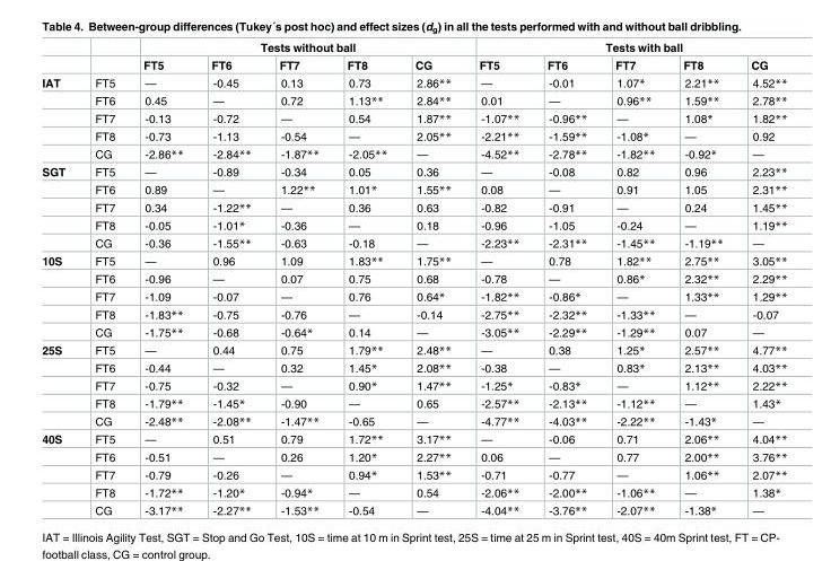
<table><thead><tr><td rowspan="2"></td><td rowspan="2"></td><td colspan="5">Tests without ball</td><td colspan="5">Tests with ball</td></tr><tr><td>FT5</td><td>FT6</td><td>FT7</td><td>FT8</td><td>CG</td><td>FT5</td><td>FT6</td><td>FT7</td><td>FT8</td><td>CG</td></tr></thead><tbody><tr><td rowspan="5">IAT</td><td>FT5</td><td>—</td><td>-0.45</td><td>0.13</td><td>0.73</td><td>2.86**</td><td>—</td><td>-0.01</td><td>1.07*</td><td>2.21**</td><td>4.52**</td></tr><tr><td>FT6</td><td>0.45</td><td>—</td><td>0.72</td><td>1.13**</td><td>2.84**</td><td>0.01</td><td>—</td><td>0.96**</td><td>1.59**</td><td>2.78**</td></tr><tr><td>FT7</td><td>-0.13</td><td>-0.72</td><td>—</td><td>0.54</td><td>1.87**</td><td>-1.07**</td><td>-0.96**</td><td>—</td><td>1.08*</td><td>1.82**</td></tr><tr><td>FT8</td><td>-0.73</td><td>-1.13</td><td>-0.54</td><td>—</td><td>2.05**</td><td>-2.21**</td><td>-1.59**</td><td>-1.08*</td><td>—</td><td>0.92</td></tr><tr><td>CG</td><td>-2.86**</td><td>-2.84**</td><td>-1.87**</td><td>-2.05**</td><td>—</td><td>-4.52**</td><td>-2.78**</td><td>-1.82**</td><td>-0.92*</td><td>—</td></tr><tr><td rowspan="5">SGT</td><td>FT5</td><td>—</td><td>-0.89</td><td>-0.34</td><td>0.05</td><td>0.36</td><td>—</td><td>-0.08</td><td>0.82</td><td>0.96</td><td>2.23**</td></tr><tr><td>FT6</td><td>0.89</td><td>—</td><td>1.22**</td><td>1.01*</td><td>1.55**</td><td>0.08</td><td>—</td><td>0.91</td><td>1.05</td><td>2.31**</td></tr><tr><td>FT7</td><td>0.34</td><td>-1.22**</td><td>—</td><td>0.36</td><td>0.63</td><td>-0.82</td><td>-0.91</td><td>—</td><td>0.24</td><td>1.45**</td></tr><tr><td>FT8</td><td>-0.05</td><td>-1.01*</td><td>-0.36</td><td>—</td><td>0.18</td><td>-0.96</td><td>-1.05</td><td>-0.24</td><td>—</td><td>1.19**</td></tr><tr><td>CG</td><td>-0.36</td><td>-1.55**</td><td>-0.63</td><td>-0.18</td><td>—</td><td>-2.23**</td><td>-2.31**</td><td>-1.45**</td><td>-1.19**</td><td>—</td></tr><tr><td rowspan="5">10S</td><td>FT5</td><td>—</td><td>0.96</td><td>1.09</td><td>1.83**</td><td>1.75**</td><td>—</td><td>0.78</td><td>1.82**</td><td>2.75**</td><td>3.05**</td></tr><tr><td>FT6</td><td>-0.96</td><td>—</td><td>0.07</td><td>0.75</td><td>0.68</td><td>-0.78</td><td>—</td><td>0.86*</td><td>2.32**</td><td>2.29**</td></tr><tr><td>FT7</td><td>-1.09</td><td>-0.07</td><td>—</td><td>0.76</td><td>0.64*</td><td>-1.82**</td><td>-0.86*</td><td>—</td><td>1.33**</td><td>1.29**</td></tr><tr><td>FT8</td><td>-1.83**</td><td>-0.75</td><td>-0.76</td><td>—</td><td>-0.14</td><td>-2.75**</td><td>-2.32**</td><td>-1.33**</td><td>—</td><td>-0.07</td></tr><tr><td>CG</td><td>-1.75**</td><td>-0.68</td><td>-0.64*</td><td>0.14</td><td>—</td><td>-3.05**</td><td>-2.29**</td><td>-1.29**</td><td>0.07</td><td>—</td></tr><tr><td rowspan="5">25S</td><td>FT5</td><td>—</td><td>0.44</td><td>0.75</td><td>1.79**</td><td>2.48**</td><td>—</td><td>0.38</td><td>1.25*</td><td>2.57**</td><td>4.77**</td></tr><tr><td>FT6</td><td>-0.44</td><td>—</td><td>0.32</td><td>1.45*</td><td>2.08**</td><td>-0.38</td><td>—</td><td>0.83*</td><td>2.13**</td><td>4.03**</td></tr><tr><td>FT7</td><td>-0.75</td><td>-0.32</td><td>—</td><td>0.90*</td><td>1.47**</td><td>-1.25*</td><td>-0.83*</td><td>—</td><td>1.12**</td><td>2.22**</td></tr><tr><td>FT8</td><td>-1.79**</td><td>-1.45*</td><td>-0.90</td><td>—</td><td>0.65</td><td>-2.57**</td><td>-2.13**</td><td>-1.12**</td><td>—</td><td>1.43*</td></tr><tr><td>CG</td><td>-2.48**</td><td>-2.08**</td><td>-1.47**</td><td>-0.65</td><td>—</td><td>-4.77**</td><td>-4.03**</td><td>-2.22**</td><td>-1.43*</td><td>—</td></tr><tr><td rowspan="5">40S</td><td>FT5</td><td>—</td><td>0.51</td><td>0.79</td><td>1.72**</td><td>3.17**</td><td>—</td><td>-0.06</td><td>0.71</td><td>2.06**</td><td>4.04**</td></tr><tr><td>FT6</td><td>-0.51</td><td>—</td><td>0.26</td><td>1.20*</td><td>2.27**</td><td>0.06</td><td>—</td><td>0.77</td><td>2.00**</td><td>3.76**</td></tr><tr><td>FT7</td><td>-0.79</td><td>-0.26</td><td>—</td><td>0.94*</td><td>1.53**</td><td>-0.71</td><td>-0.77</td><td>—</td><td>1.06**</td><td>2.07**</td></tr><tr><td>FT8</td><td>-1.72**</td><td>-1.20*</td><td>-0.94*</td><td>—</td><td>0.54</td><td>-2.06**</td><td>-2.00**</td><td>-1.06**</td><td>—</td><td>1.38*</td></tr><tr><td>CG</td><td>-3.17**</td><td>-2.27**</td><td>-1.53**</td><td>-0.54</td><td>—</td><td>-4.04**</td><td>-3.76**</td><td>-2.07**</td><td>-1.38*</td><td>—</td></tr></tbody></table>